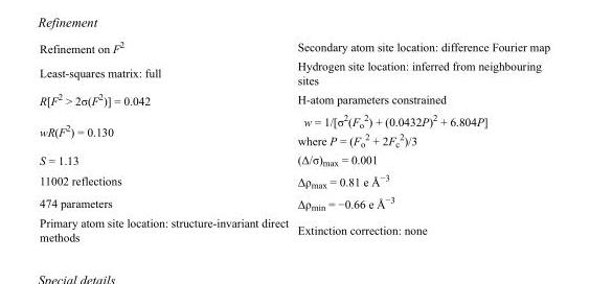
<table><tbody><tr><td>Refinement on F<sup>2</sup></td><td>Secondary atom site location: difference Fourier map</td></tr><tr><td>Least-squares matrix: full</td><td>Hydrogen site location: inferred from neighbouring sites</td></tr><tr><td>R[F<sup>2</sup> &gt; 2σ(F<sup>2</sup>)] = 0.042</td><td>H-atom parameters constrained</td></tr><tr><td>wR(F<sup>2</sup>) = 0.130</td><td>w = 1/[σ<sup>2</sup>(F<sub>o</sub> <sup>2</sup>) + (0.0432P)<sup>2</sup> + 6.804P] where P = (F<sub>o</sub> <sup>2</sup> + 2F<sub>c</sub> <sup>2</sup>)/3</td></tr><tr><td>S = 1.13</td><td>(Δ/σ)<sub>max</sub> = 0.001</td></tr><tr><td>11002 reflections</td><td>Δρ<sub>max</sub> = 0.81 e Å<sup>−3</sup></td></tr><tr><td>474 parameters</td><td>Δρ<sub>min</sub> = −0.66 e Å<sup>−3</sup></td></tr><tr><td>Primary atom site location: structure-invariant direct methods</td><td>Extinction correction: none</td></tr></tbody></table>